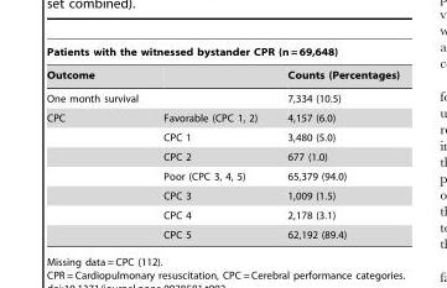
<table><thead><tr><td colspan="3">Patients with the witnessed bystander CPR (n = 69,648)</td></tr><tr><td>Outcome</td><td></td><td>Counts (Percentages)</td></tr></thead><tbody><tr><td>One month survival</td><td></td><td>7,334 (10.5)</td></tr><tr><td rowspan="7">CPC</td><td>Favorable (CPC 1, 2)</td><td>4,157 (6.0)</td></tr><tr><td>CPC 1</td><td>3,480 (5.0)</td></tr><tr><td>CPC 2</td><td>677 (1.0)</td></tr><tr><td>Poor (CPC 3, 4, 5)</td><td>65,379 (94.0)</td></tr><tr><td>CPC 3</td><td>1,009 (1.5)</td></tr><tr><td>CPC 4</td><td>2,178 (3.1)</td></tr><tr><td>CPC 5</td><td>62,192 (89.4)</td></tr></tbody></table>